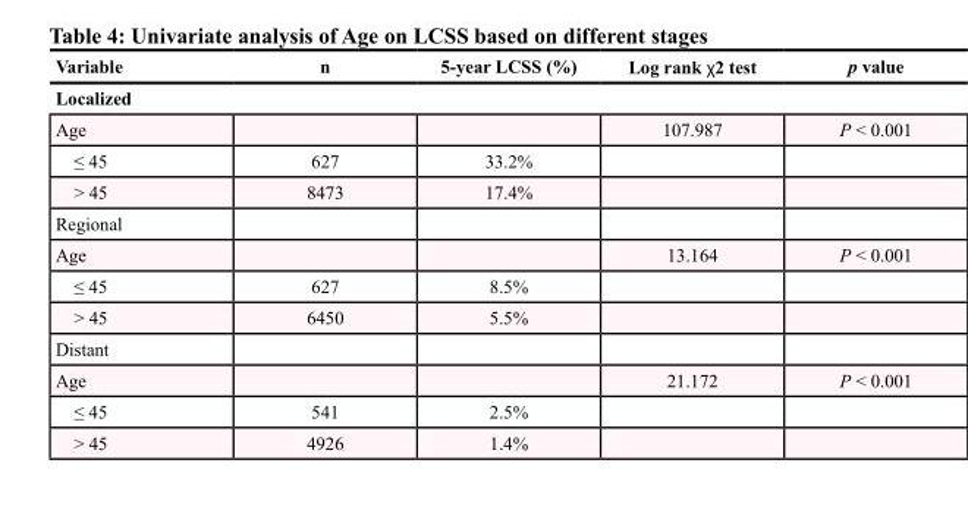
<table><thead><tr><td>Variable</td><td>n</td><td>5-year LCSS (%)</td><td>Log rank χ2 test</td><td>p value</td></tr><tr><td colspan="5">Localized</td></tr></thead><tbody><tr><td>Age</td><td></td><td></td><td>107.987</td><td>P &lt; 0.001</td></tr><tr><td>≤ 45</td><td>627</td><td>33.2%</td><td></td><td></td></tr><tr><td>&gt; 45</td><td>8473</td><td>17.4%</td><td></td><td></td></tr><tr><td colspan="5">Regional</td></tr><tr><td>Age</td><td></td><td></td><td>13.164</td><td>P &lt; 0.001</td></tr><tr><td>≤ 45</td><td>627</td><td>8.5%</td><td></td><td></td></tr><tr><td>&gt; 45</td><td>6450</td><td>5.5%</td><td></td><td></td></tr><tr><td colspan="5">Distant</td></tr><tr><td>Age</td><td></td><td></td><td>21.172</td><td>P &lt; 0.001</td></tr><tr><td>≤ 45</td><td>541</td><td>2.5%</td><td></td><td></td></tr><tr><td>&gt; 45</td><td>4926</td><td>1.4%</td><td></td><td></td></tr></tbody></table>